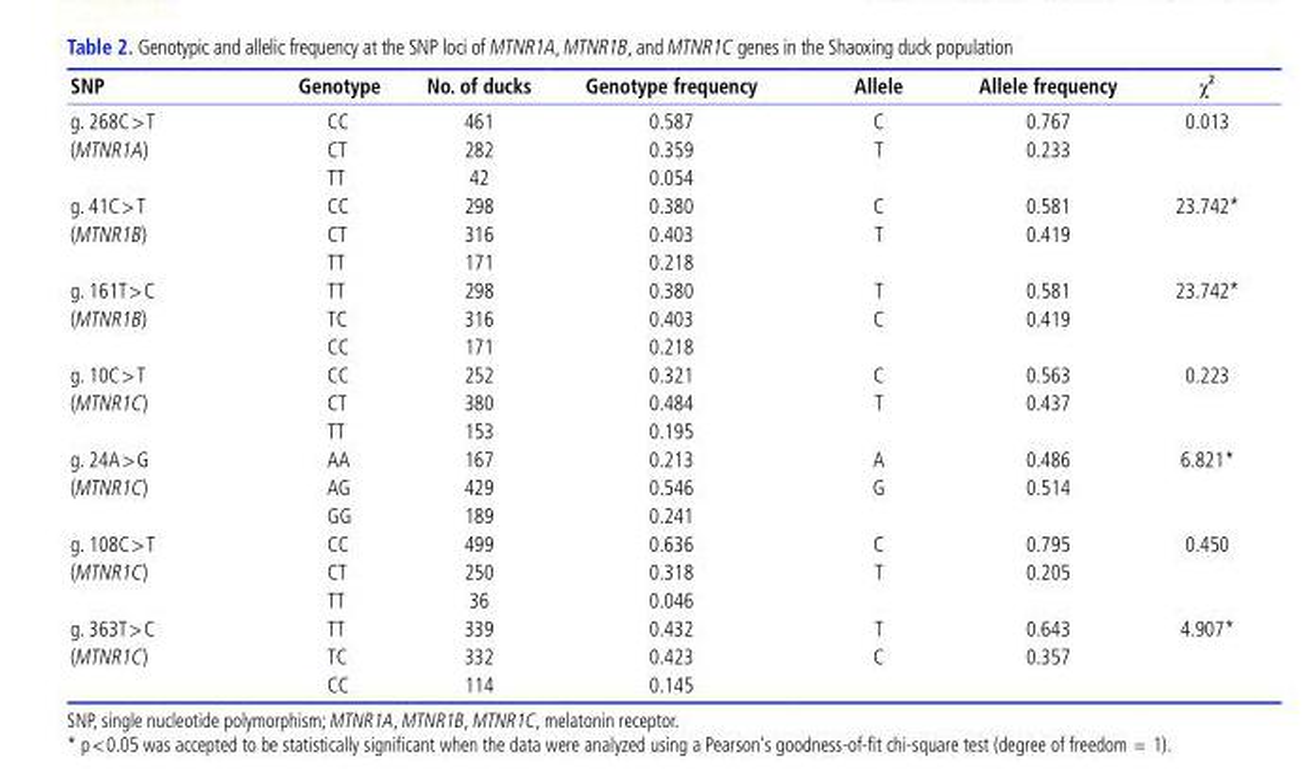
<table><thead><tr><td>SNP</td><td>Genotype</td><td>No. of ducks</td><td>Genotype frequency</td><td>Allele</td><td>Allele frequency</td><td>χ <sup>2</sup></td></tr></thead><tbody><tr><td>g. 268C&gt;T</td><td>CC</td><td>461</td><td>0.587</td><td>C</td><td>0.767</td><td>0.013</td></tr><tr><td rowspan="2">(MTNR1A)</td><td>CT</td><td>282</td><td>0.359</td><td>T</td><td>0.233</td><td></td></tr><tr><td>TT</td><td>42</td><td>0.054</td><td></td><td></td><td></td></tr><tr><td>g. 41C&gt;T</td><td>CC</td><td>298</td><td>0.380</td><td>C</td><td>0.581</td><td>23.742*</td></tr><tr><td rowspan="2">(MTNR1B)</td><td>CT</td><td>316</td><td>0.403</td><td>T</td><td>0.419</td><td></td></tr><tr><td>TT</td><td>171</td><td>0.218</td><td></td><td></td><td></td></tr><tr><td>g. 161T&gt;C</td><td>TT</td><td>298</td><td>0.380</td><td>T</td><td>0.581</td><td>23.742*</td></tr><tr><td rowspan="2">(MTNR1B)</td><td>TC</td><td>316</td><td>0.403</td><td>C</td><td>0.419</td><td></td></tr><tr><td>CC</td><td>171</td><td>0.218</td><td></td><td></td><td></td></tr><tr><td>g. 10C&gt;T</td><td>CC</td><td>252</td><td>0.321</td><td>C</td><td>0.563</td><td>0.223</td></tr><tr><td rowspan="2">(MTNR1C)</td><td>CT</td><td>380</td><td>0.484</td><td>T</td><td>0.437</td><td></td></tr><tr><td>TT</td><td>153</td><td>0.195</td><td></td><td></td><td></td></tr><tr><td>g. 24A&gt;G</td><td>AA</td><td>167</td><td>0.213</td><td>A</td><td>0.486</td><td>6.821*</td></tr><tr><td rowspan="2">(MTNR1C)</td><td>AG</td><td>429</td><td>0.546</td><td>G</td><td>0.514</td><td></td></tr><tr><td>GG</td><td>189</td><td>0.241</td><td></td><td></td><td></td></tr><tr><td>g. 108C&gt;T</td><td>CC</td><td>499</td><td>0.636</td><td>C</td><td>0.795</td><td>0.450</td></tr><tr><td rowspan="2">(MTNR1C)</td><td>CT</td><td>250</td><td>0.318</td><td>T</td><td>0.205</td><td></td></tr><tr><td>TT</td><td>36</td><td>0.046</td><td></td><td></td><td></td></tr><tr><td>g. 363T&gt;C</td><td>TT</td><td>339</td><td>0.432</td><td>T</td><td>0.643</td><td>4.907*</td></tr><tr><td rowspan="2">(MTNR1C)</td><td>TC</td><td>332</td><td>0.423</td><td>C</td><td>0.357</td><td></td></tr><tr><td>CC</td><td>114</td><td>0.145</td><td></td><td></td><td></td></tr></tbody></table>